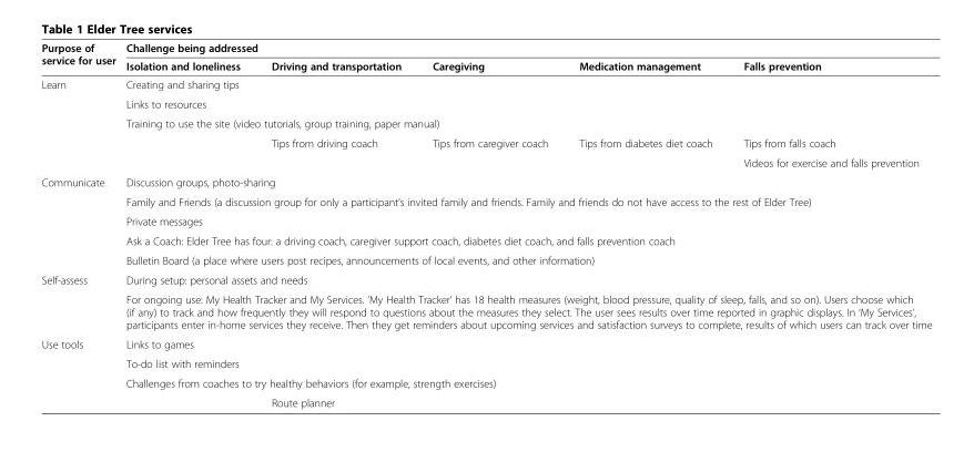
<table><thead><tr><td rowspan="2">Purpose of service for user</td><td colspan="5">Challenge being addressed</td></tr><tr><td>Isolation and loneliness</td><td>Driving and transportation</td><td>Caregiving</td><td>Medication management</td><td>Falls prevention</td></tr></thead><tbody><tr><td rowspan="5">Learn</td><td colspan="5">Creating and sharing tips</td></tr><tr><td colspan="5">Links to resources</td></tr><tr><td colspan="5">Training to use the site (video tutorials, group training, paper manual)</td></tr><tr><td></td><td>Tips from driving coach</td><td>Tips from caregiver coach</td><td>Tips from diabetes diet coach</td><td>Tips from falls coach</td></tr><tr><td colspan="4"></td><td>Videos for exercise and falls prevention</td></tr><tr><td rowspan="5">Communicate</td><td colspan="5">Discussion groups, photo-sharing</td></tr><tr><td colspan="5">Family and Friends (a discussion group for only a participant’s invited family and friends. Family and friends do not have access to the rest of Elder Tree)</td></tr><tr><td colspan="5">Private messages</td></tr><tr><td colspan="5">Ask a Coach: Elder Tree has four: a driving coach, caregiver support coach, diabetes diet coach, and falls prevention coach</td></tr><tr><td colspan="5">Bulletin Board (a place where users post recipes, announcements of local events, and other information)</td></tr><tr><td rowspan="2">Self-assess</td><td colspan="5">During setup: personal assets and needs</td></tr><tr><td colspan="5">For ongoing use: My Health Tracker and My Services. ‘My Health Tracker’ has 18 health measures (weight, blood pressure, quality of sleep, falls, and so on). Users choose which (if any) to track and how frequently they will respond to questions about the measures they select. The user sees results over time reported in graphic displays. In ‘My Services’, participants enter in-home services they receive. Then they get reminders about upcoming services and satisfaction surveys to complete, results of which users can track over time</td></tr><tr><td rowspan="4">Use tools</td><td colspan="5">Links to games</td></tr><tr><td colspan="5">To-do list with reminders</td></tr><tr><td colspan="5">Challenges from coaches to try healthy behaviors (for example, strength exercises)</td></tr><tr><td></td><td>Route planner</td><td colspan="3"></td></tr></tbody></table>